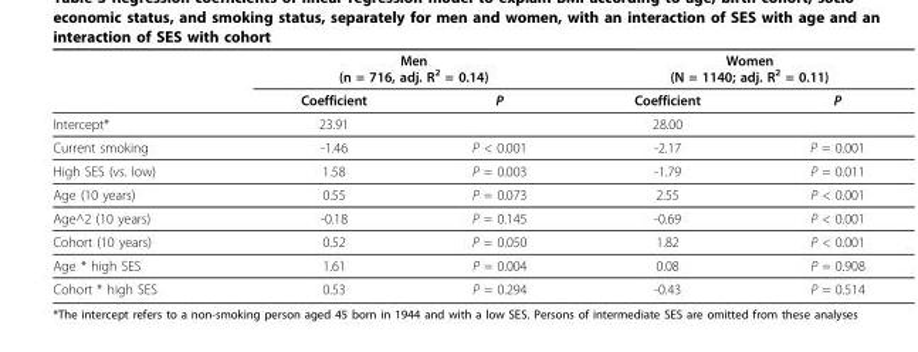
<table><thead><tr><td rowspan="2"></td><td colspan="2">Men (n = 716, adj. R<sup>2</sup> = 0.14)</td><td colspan="2">Women (N = 1140; adj. R<sup>2</sup> = 0.11)</td></tr><tr><td>Coefficient</td><td>P</td><td>Coefficient</td><td>P</td></tr></thead><tbody><tr><td>Intercept*</td><td>23.91</td><td></td><td>28.00</td><td></td></tr><tr><td>Current smoking</td><td>-1.46</td><td>P &lt; 0.001</td><td>-2.17</td><td>P = 0.001</td></tr><tr><td>High SES (vs. low)</td><td>1.58</td><td>P = 0.003</td><td>-1.79</td><td>P = 0.011</td></tr><tr><td>Age (10 years)</td><td>0.55</td><td>P = 0.073</td><td>2.55</td><td>P &lt; 0.001</td></tr><tr><td>Age^2 (10 years)</td><td>-0.18</td><td>P = 0.145</td><td>-0.69</td><td>P &lt; 0.001</td></tr><tr><td>Cohort (10 years)</td><td>0.52</td><td>P = 0.050</td><td>1.82</td><td>P &lt; 0.001</td></tr><tr><td>Age * high SES</td><td>1.61</td><td>P = 0.004</td><td>0.08</td><td>P = 0.908</td></tr><tr><td>Cohort * high SES</td><td>0.53</td><td>P = 0.294</td><td>-0.43</td><td>P = 0.514</td></tr></tbody></table>